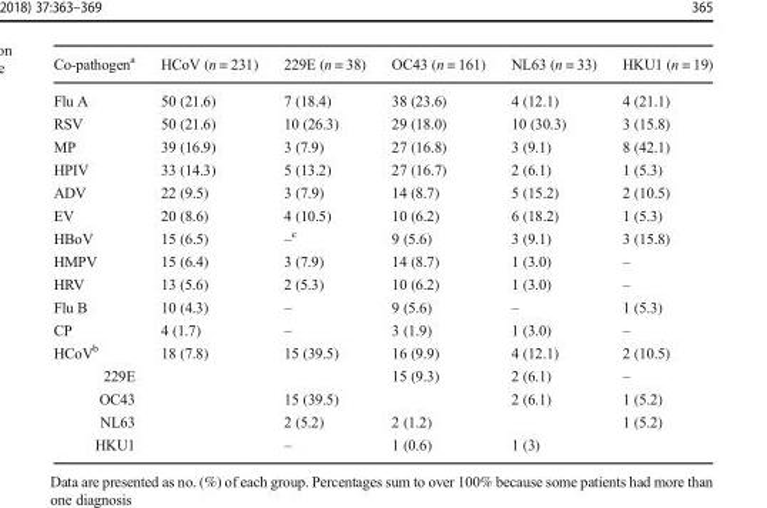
<table><thead><tr><td>Co-pathogen<sup>a</sup></td><td>HCoV (n = 231)</td><td>229E (n = 38)</td><td>OC43 (n = 161)</td><td>NL63 (n = 33)</td><td>HKU1 (n = 19)</td></tr></thead><tbody><tr><td>Flu A</td><td>50 (21.6)</td><td>7 (18.4)</td><td>38 (23.6)</td><td>4 (12.1)</td><td>4 (21.1)</td></tr><tr><td>RSV</td><td>50 (21.6)</td><td>10 (26.3)</td><td>29 (18.0)</td><td>10 (30.3)</td><td>3 (15.8)</td></tr><tr><td>MP</td><td>39 (16.9)</td><td>3 (7.9)</td><td>27 (16.8)</td><td>3 (9.1)</td><td>8 (42.1)</td></tr><tr><td>HPIV</td><td>33 (14.3)</td><td>5 (13.2)</td><td>27 (16.7)</td><td>2 (6.1)</td><td>1 (5.3)</td></tr><tr><td>ADV</td><td>22 (9.5)</td><td>3 (7.9)</td><td>14 (8.7)</td><td>5 (15.2)</td><td>2 (10.5)</td></tr><tr><td>EV</td><td>20 (8.6)</td><td>4 (10.5)</td><td>10 (6.2)</td><td>6 (18.2)</td><td>1 (5.3)</td></tr><tr><td>HBoV</td><td>15 (6.5)</td><td>–<sup>c</sup></td><td>9 (5.6)</td><td>3 (9.1)</td><td>3 (15.8)</td></tr><tr><td>HMPV</td><td>15 (6.4)</td><td>3 (7.9)</td><td>14 (8.7)</td><td>1 (3.0)</td><td>–</td></tr><tr><td>HRV</td><td>13 (5.6)</td><td>2 (5.3)</td><td>10 (6.2)</td><td>1 (3.0)</td><td>–</td></tr><tr><td>Flu B</td><td>10 (4.3)</td><td>–</td><td>9 (5.6)</td><td>–</td><td>1 (5.3)</td></tr><tr><td>CP</td><td>4 (1.7)</td><td>–</td><td>3 (1.9)</td><td>1 (3.0)</td><td>–</td></tr><tr><td>HCoV<sup>b</sup></td><td>18 (7.8)</td><td>15 (39.5)</td><td>16 (9.9)</td><td>4 (12.1)</td><td>2 (10.5)</td></tr><tr><td>229E</td><td></td><td></td><td>15 (9.3)</td><td>2 (6.1)</td><td>–</td></tr><tr><td>OC43</td><td></td><td>15 (39.5)</td><td></td><td>2 (6.1)</td><td>1 (5.2)</td></tr><tr><td>NL63</td><td></td><td>2 (5.2)</td><td>2 (1.2)</td><td></td><td>1 (5.2)</td></tr><tr><td>HKU1</td><td></td><td>–</td><td>1 (0.6)</td><td>1 (3)</td><td></td></tr></tbody></table>